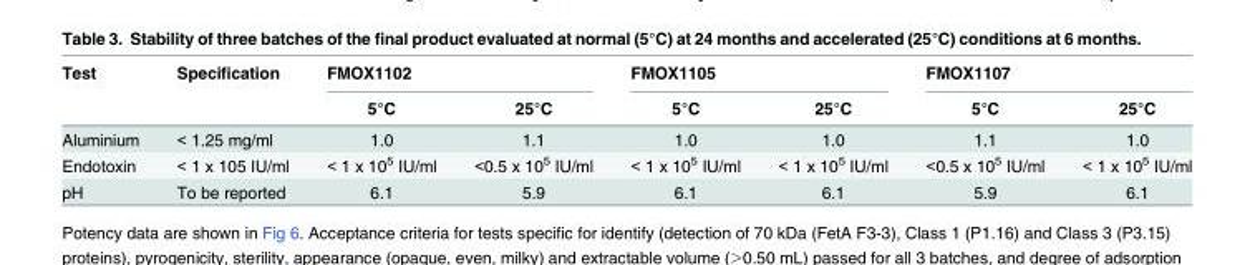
<table><thead><tr><td rowspan="2">Test</td><td rowspan="2">Specification</td><td colspan="2">FMOX1102</td><td colspan="2">FMOX1105</td><td colspan="2">FMOX1107</td></tr><tr><td>5°C</td><td>25°C</td><td>5°C</td><td>25°C</td><td>5°C</td><td>25°C</td></tr></thead><tbody><tr><td>Aluminium</td><td>&lt; 1.25 mg/ml</td><td>1.0</td><td>1.1</td><td>1.0</td><td>1.0</td><td>1.1</td><td>1.0</td></tr><tr><td>Endotoxin</td><td>&lt; 1 x 105 IU/ml</td><td>&lt; 1 x 10<sup>5</sup> IU/ml</td><td>&lt;0.5 x 10<sup>5</sup> IU/ml</td><td>&lt; 1 x 10<sup>5</sup> IU/ml</td><td>&lt; 1 x 10<sup>5</sup> IU/ml</td><td>&lt;0.5 x 10<sup>5</sup> IU/ml</td><td>&lt; 1 x 10<sup>5</sup> IU/ml</td></tr><tr><td>pH</td><td>To be reported</td><td>6.1</td><td>5.9</td><td>6.1</td><td>6.1</td><td>5.9</td><td>6.1</td></tr></tbody></table>